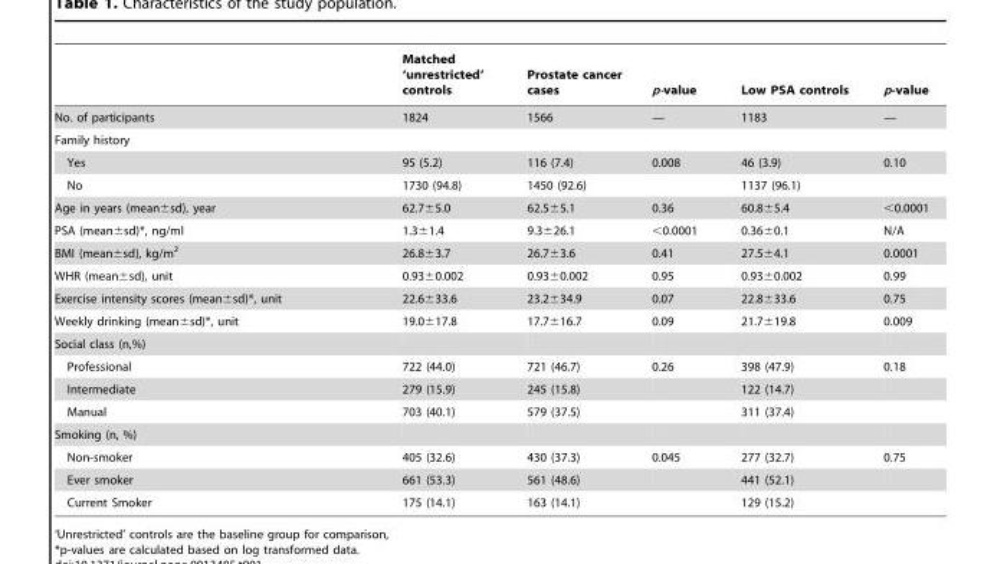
<table><thead><tr><td></td><td>Matched ‘unrestricted’ controls</td><td>Prostate cancer cases</td><td>p-value</td><td>Low PSA controls</td><td>p-value</td></tr></thead><tbody><tr><td>No. of participants</td><td>1824</td><td>1566</td><td>—</td><td>1183</td><td>—</td></tr><tr><td colspan="6">Family history</td></tr><tr><td>Yes</td><td>95 (5.2)</td><td>116 (7.4)</td><td>0.008</td><td>46 (3.9)</td><td>0.10</td></tr><tr><td>No</td><td>1730 (94.8)</td><td>1450 (92.6)</td><td></td><td>1137 (96.1)</td><td></td></tr><tr><td>Age in years (mean±sd), year</td><td>62.7±5.0</td><td>62.5±5.1</td><td>0.36</td><td>60.8±5.4</td><td>&lt;0.0001</td></tr><tr><td>PSA (mean±sd)*, ng/ml</td><td>1.3±1.4</td><td>9.3±26.1</td><td>&lt;0.0001</td><td>0.36±0.1</td><td>N/A</td></tr><tr><td>BMI (mean±sd), kg/m<sup>2</sup></td><td>26.8±3.7</td><td>26.7±3.6</td><td>0.41</td><td>27.5±4.1</td><td>0.0001</td></tr><tr><td>WHR (mean±sd), unit</td><td>0.93±0.002</td><td>0.93±0.002</td><td>0.95</td><td>0.93±0.002</td><td>0.99</td></tr><tr><td>Exercise intensity scores (mean±sd)*, unit</td><td>22.6±33.6</td><td>23.2±34.9</td><td>0.07</td><td>22.8±33.6</td><td>0.75</td></tr><tr><td>Weekly drinking (mean±sd)*, unit</td><td>19.0±17.8</td><td>17.7±16.7</td><td>0.09</td><td>21.7±19.8</td><td>0.009</td></tr><tr><td colspan="6">Social class (n,%)</td></tr><tr><td>Professional</td><td>722 (44.0)</td><td>721 (46.7)</td><td>0.26</td><td>398 (47.9)</td><td>0.18</td></tr><tr><td>Intermediate</td><td>279 (15.9)</td><td>245 (15.8)</td><td></td><td>122 (14.7)</td><td></td></tr><tr><td>Manual</td><td>703 (40.1)</td><td>579 (37.5)</td><td></td><td>311 (37.4)</td><td></td></tr><tr><td colspan="6">Smoking (n, %)</td></tr><tr><td>Non-smoker</td><td>405 (32.6)</td><td>430 (37.3)</td><td>0.045</td><td>277 (32.7)</td><td>0.75</td></tr><tr><td>Ever smoker</td><td>661 (53.3)</td><td>561 (48.6)</td><td></td><td>441 (52.1)</td><td></td></tr><tr><td>Current Smoker</td><td>175 (14.1)</td><td>163 (14.1)</td><td></td><td>129 (15.2)</td><td></td></tr></tbody></table>